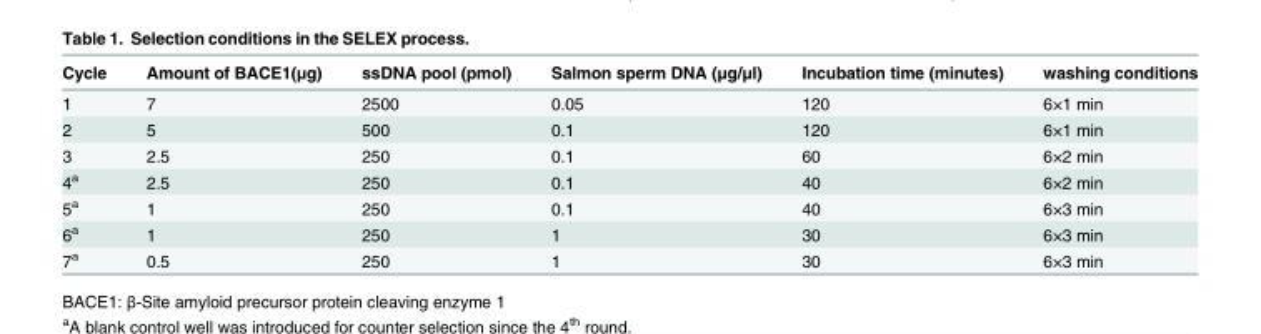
<table><thead><tr><td>Cycle</td><td>Amount of BACE1(μg)</td><td>ssDNA pool (pmol)</td><td>Salmon sperm DNA (μg/μl)</td><td>Incubation time (minutes)</td><td>washing conditions</td></tr></thead><tbody><tr><td>1</td><td>7</td><td>2500</td><td>0.05</td><td>120</td><td>6×1 min</td></tr><tr><td>2</td><td>5</td><td>500</td><td>0.1</td><td>120</td><td>6×1 min</td></tr><tr><td>3</td><td>2.5</td><td>250</td><td>0.1</td><td>60</td><td>6×2 min</td></tr><tr><td>4<sup>a</sup></td><td>2.5</td><td>250</td><td>0.1</td><td>40</td><td>6×2 min</td></tr><tr><td>5<sup>a</sup></td><td>1</td><td>250</td><td>0.1</td><td>40</td><td>6×3 min</td></tr><tr><td>6<sup>a</sup></td><td>1</td><td>250</td><td>1</td><td>30</td><td>6×3 min</td></tr><tr><td>7<sup>a</sup></td><td>0.5</td><td>250</td><td>1</td><td>30</td><td>6×3 min</td></tr></tbody></table>